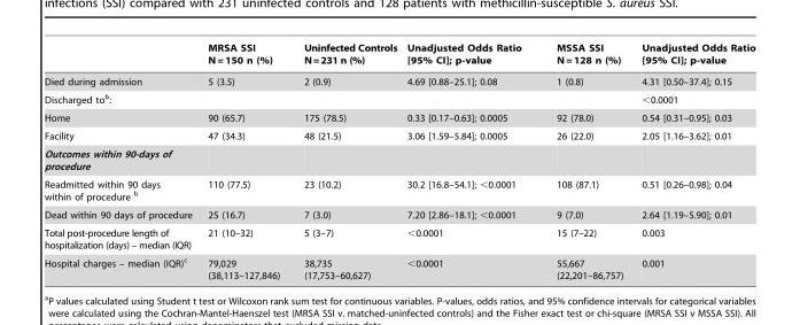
<table><thead><tr><td></td><td>MRSA SSI N = 150 n (%)</td><td>Uninfected Controls N=231 n (%)</td><td>Unadjusted Odds Ratio [95% CI]; p-value</td><td>MSSA SSI N = 128 n (%)</td><td>Unadjusted Odds Ratio [95% CI]; p-value</td></tr></thead><tbody><tr><td>Died during admission</td><td>5 (3.5)</td><td>2 (0.9)</td><td>4.69 [0.88–25.1]; 0.08</td><td>1 (0.8)</td><td>4.31 [0.50–37.4]; 0.15</td></tr><tr><td>Discharged to<sup>b</sup>:</td><td></td><td></td><td></td><td></td><td>&lt;0.0001</td></tr><tr><td>Home</td><td>90 (65.7)</td><td>175 (78.5)</td><td>0.33 [0.17–0.63]; 0.0005</td><td>92 (78.0)</td><td>0.54 [0.31–0.95]; 0.03</td></tr><tr><td>Facility</td><td>47 (34.3)</td><td>48 (21.5)</td><td>3.06 [1.59–5.84]; 0.0005</td><td>26 (22.0)</td><td>2.05 [1.16–3.62]; 0.01</td></tr><tr><td colspan="6">Outcomes within 90-days of procedure</td></tr><tr><td>Readmitted within 90 days within of procedure b</td><td>110 (77.5)</td><td>23 (10.2)</td><td>30.2 [16.8–54.1]; &lt;0.0001</td><td>108 (87.1)</td><td>0.51 [0.26–0.98]; 0.04</td></tr><tr><td>Dead within 90 days of procedure</td><td>25 (16.7)</td><td>7 (3.0)</td><td>7.20 [2.86–18.1]; &lt;0.0001</td><td>9 (7.0)</td><td>2.64 [1.19–5.90]; 0.01</td></tr><tr><td>Total post-procedure length of hospitalization (days) – median (IQR)</td><td>21 (10–32)</td><td>5 (3–7)</td><td>&lt;0.0001</td><td>15 (7–22)</td><td>0.003</td></tr><tr><td>Hospital charges – median (IQR)<sup>c</sup></td><td>79,029 (38,113–127,846)</td><td>38,735 (17,753–60,627)</td><td>&lt;0.0001</td><td>55,667 (22,201–86,757)</td><td>0.001</td></tr></tbody></table>